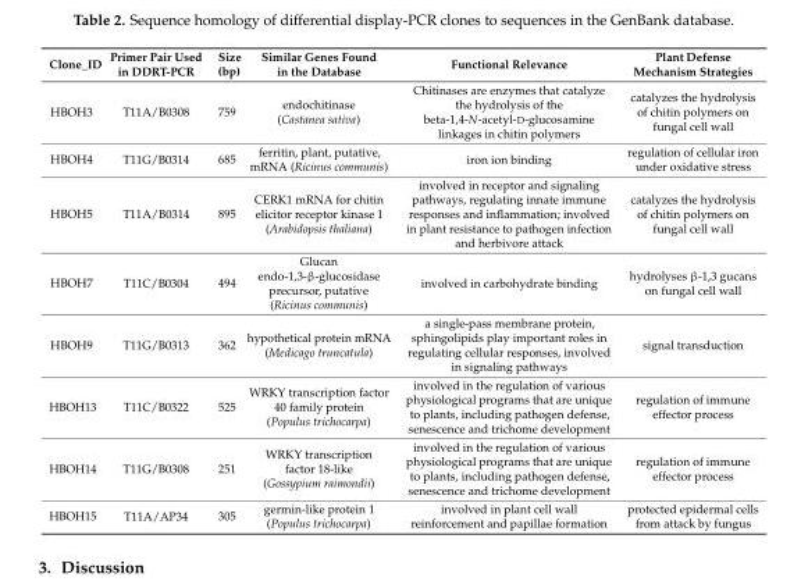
<table><thead><tr><td>Clone_ID</td><td>Primer Pair Used in DDRT-PCR</td><td>Size (bp)</td><td>Similar Genes Found in the Database</td><td>Functional Relevance</td><td>Plant Defense Mechanism Strategies</td></tr></thead><tbody><tr><td>HBOH3</td><td>T11A/B0308</td><td>759</td><td>endochitinase (Castanea sativa)</td><td>Chitinases are enzymes that catalyze the hydrolysis of the beta-1,4-N-acetyl-D-glucosamine linkages in chitin polymers</td><td>catalyzes the hydrolysis of chitin polymers on fungal cell wall</td></tr><tr><td>HBOH4</td><td>T11G/B0314</td><td>685</td><td>ferritin, plant, putative, mRNA (Ricinus communis)</td><td>iron ion binding</td><td>regulation of cellular iron under oxidative stress</td></tr><tr><td>HBOH5</td><td>T11A/B0314</td><td>895</td><td>CERK1 mRNA for chitin elicitor receptor kinase 1 (Arabidopsis thaliana)</td><td>involved in receptor and signaling pathways, regulating innate immune responses and inflammation; involved in plant resistance to pathogen infection and herbivore attack</td><td>catalyzes the hydrolysis of chitin polymers on fungal cell wall</td></tr><tr><td>HBOH7</td><td>T11C/B0304</td><td>494</td><td>Glucan endo-1,3-β-glucosidase precursor, putative (Ricinus communis)</td><td>involved in carbohydrate binding</td><td>hydrolyses β-1,3 gucans on fungal cell wall</td></tr><tr><td>HBOH9</td><td>T11G/B0313</td><td>362</td><td>hypothetical protein mRNA (Medicago truncatula)</td><td>a single-pass membrane protein, sphingolipids play important roles in regulating cellular responses, involved in signaling pathways</td><td>signal transduction</td></tr><tr><td>HBOH13</td><td>T11C/B0322</td><td>525</td><td>WRKY transcription factor 40 family protein (Populus trichocarpa)</td><td>involved in the regulation of various physiological programs that are unique to plants, including pathogen defense, senescence and trichome development</td><td>regulation of immune effector process</td></tr><tr><td>HBOH14</td><td>T11G/B0308</td><td>251</td><td>WRKY transcription factor 18-like (Gossypium raimondii)</td><td>involved in the regulation of various physiological programs that are unique to plants, including pathogen defense, senescence and trichome development</td><td>regulation of immune effector process</td></tr><tr><td>HBOH15</td><td>T11A/AP34</td><td>305</td><td>germin-like protein 1 (Populus trichocarpa)</td><td>involved in plant cell wall reinforcement and papillae formation</td><td>protected epidermal cells from attack by fungus</td></tr></tbody></table>